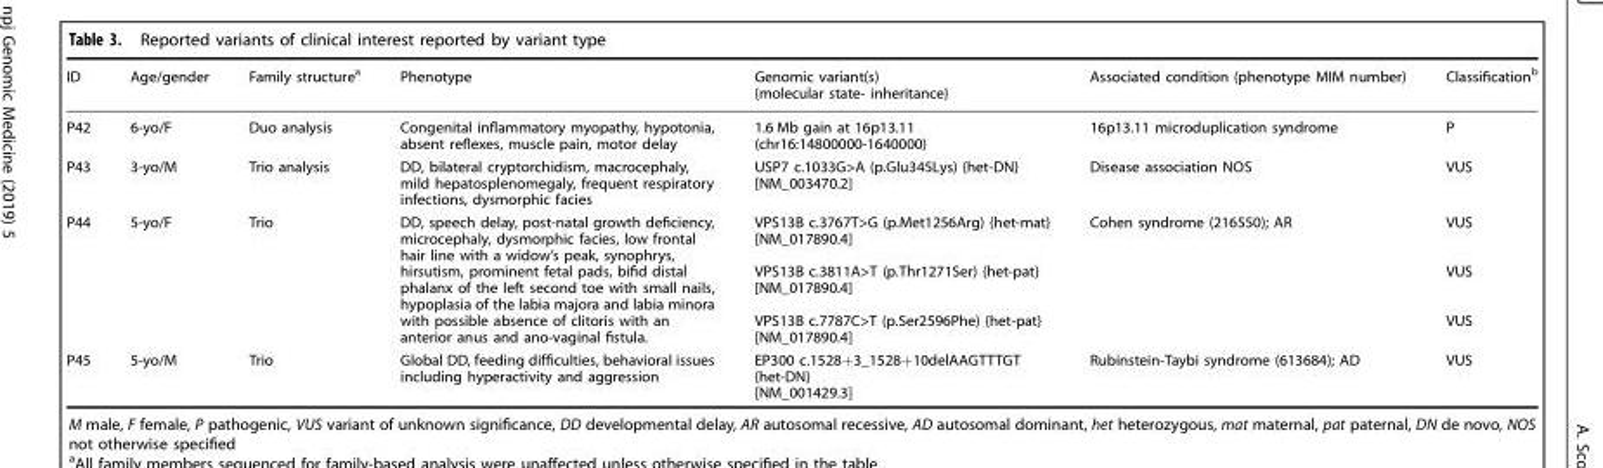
<table><thead><tr><td>ID</td><td>Age/gender</td><td>Family structure<sup>a</sup></td><td>Phenotype</td><td>Genomic variant(s) {molecular state- inheritance}</td><td>Associated condition (phenotype MIM number)</td><td>Classification<sup>b</sup></td></tr></thead><tbody><tr><td>P42</td><td>6-yo/F</td><td>Duo analysis</td><td>Congenital inflammatory myopathy, hypotonia, absent reflexes, muscle pain, motor delay</td><td>1.6 Mb gain at 16p13.11 (chr16:14800000-1640000)</td><td>16p13.11 microduplication syndrome</td><td>P</td></tr><tr><td>P43</td><td>3-yo/M</td><td>Trio analysis</td><td>DD, bilateral cryptorchidism, macrocephaly, mild hepatosplenomegaly, frequent respiratory infections, dysmorphic facies</td><td>USP7 c.1033G&gt;A (p.Glu345Lys) {het-DN} [NM_003470.2]</td><td>Disease association NOS</td><td>VUS</td></tr><tr><td>P44</td><td>5-yo/F</td><td>Trio</td><td>DD, speech delay, post-natal growth deficiency, microcephaly, dysmorphic facies, low frontal hair line with a widow’s peak, synophrys, hirsutism, prominent fetal pads, bifid distal phalanx of the left second toe with small nails, hypoplasia of the labia majora and labia minora with possible absence of clitoris with an anterior anus and ano-vaginal fistula.</td><td>VPS13B c.3767T&gt;G (p.Met1256Arg) {het-mat} [NM_017890.4] VPS13B c.3811A&gt;T (p.Thr1271Ser) {het-pat} [NM_017890.4] VPS13B c.7787C&gt;T (p.Ser2596Phe) {het-pat} [NM_017890.4]</td><td>Cohen syndrome (216550); AR</td><td>VUS VUS VUS</td></tr><tr><td>P45</td><td>5-yo/M</td><td>Trio</td><td>Global DD, feeding difficulties, behavioral issues including hyperactivity and aggression</td><td>EP300 c.1528+3_1528+10delAAGTTTGT {het-DN} [NM_001429.3]</td><td>Rubinstein-Taybi syndrome (613684); AD</td><td>VUS</td></tr></tbody></table>